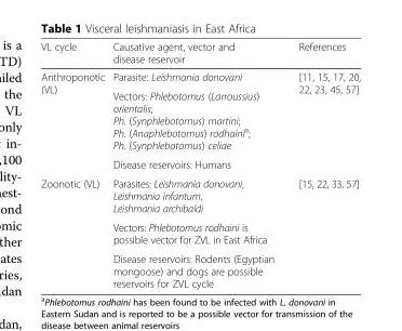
<table><thead><tr><td>VL cycle</td><td>Causative agent, vector and disease reservoir</td><td>References</td></tr></thead><tbody><tr><td rowspan="3">Anthroponotic (VL)</td><td>Parasite: Leishmania donovani</td><td rowspan="3">[11, 15, 17, 20, 22, 23, 45, 57]</td></tr><tr><td>Vectors: Phlebotomus (Larroussius) orientalis; Ph. (Synphlebotomus) martini; Ph. (Anaphlebotomus) rodhaini<sup>a</sup>; Ph. (Synphlebotomus) celiae</td></tr><tr><td>Disease reservoirs: Humans</td></tr><tr><td rowspan="3">Zoonotic (VL)</td><td>Parasites: Leishmania donovani, Leishmania infantum, Leishmania archibaldi</td><td rowspan="3">[15, 22, 33, 57]</td></tr><tr><td>Vectors: Phlebotomus rodhaini is possible vector for ZVL in East Africa</td></tr><tr><td>Disease reservoirs: Rodents (Egyptian mongoose) and dogs are possible reservoirs for ZVL cycle</td></tr></tbody></table>